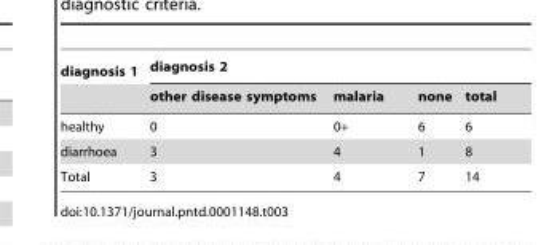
<table><thead><tr><td rowspan="2">diagnosis 1</td><td colspan="4">diagnosis 2</td></tr><tr><td>other disease symptoms</td><td>malaria</td><td>none</td><td>total</td></tr></thead><tbody><tr><td>healthy</td><td>0</td><td>0+</td><td>6</td><td>6</td></tr><tr><td>diarrhoea</td><td>3</td><td>4</td><td>1</td><td>8</td></tr><tr><td>Total</td><td>3</td><td>4</td><td>7</td><td>14</td></tr></tbody></table>